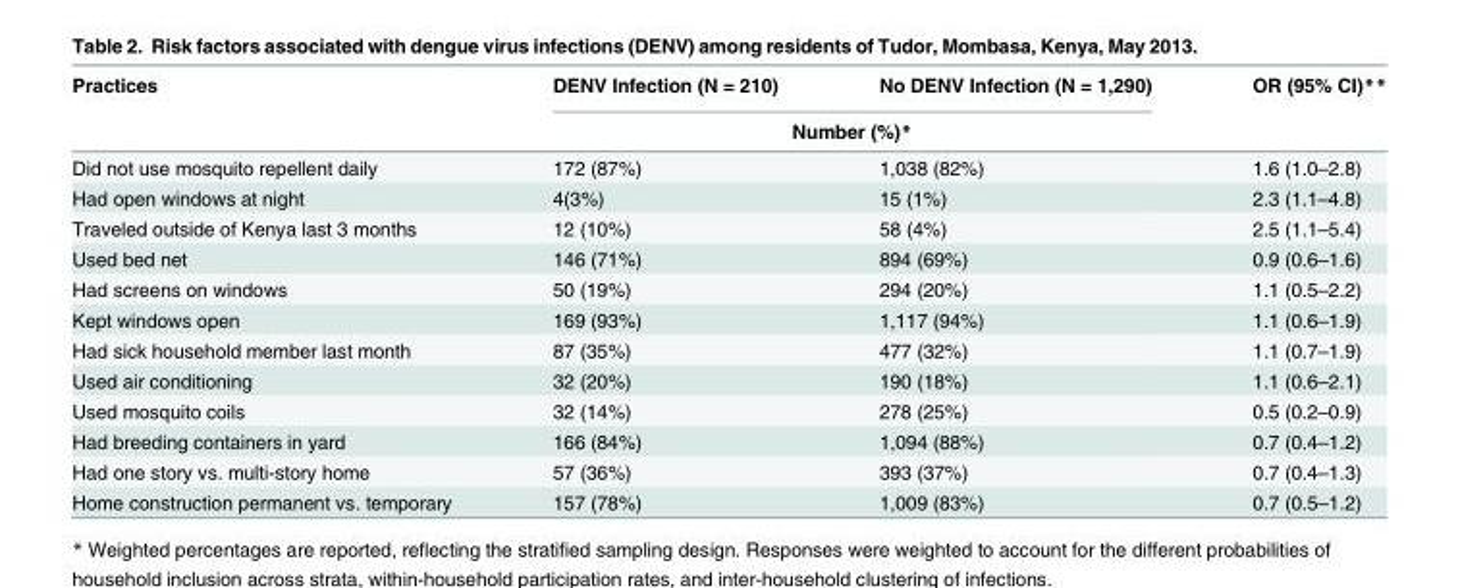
<table><thead><tr><td rowspan="2">Practices</td><td>DENV Infection (N = 210)</td><td>No DENV Infection (N = 1,290)</td><td rowspan="2">OR (95% CI)**</td></tr><tr><td colspan="2">Number (%)*</td></tr></thead><tbody><tr><td>Did not use mosquito repellent daily</td><td>172 (87%)</td><td>1,038 (82%)</td><td>1.6 (1.0–2.8)</td></tr><tr><td>Had open windows at night</td><td>4(3%)</td><td>15 (1%)</td><td>2.3 (1.1–4.8)</td></tr><tr><td>Traveled outside of Kenya last 3 months</td><td>12 (10%)</td><td>58 (4%)</td><td>2.5 (1.1–5.4)</td></tr><tr><td>Used bed net</td><td>146 (71%)</td><td>894 (69%)</td><td>0.9 (0.6–1.6)</td></tr><tr><td>Had screens on windows</td><td>50 (19%)</td><td>294 (20%)</td><td>1.1 (0.5–2.2)</td></tr><tr><td>Kept windows open</td><td>169 (93%)</td><td>1,117 (94%)</td><td>1.1 (0.6–1.9)</td></tr><tr><td>Had sick household member last month</td><td>87 (35%)</td><td>477 (32%)</td><td>1.1 (0.7–1.9)</td></tr><tr><td>Used air conditioning</td><td>32 (20%)</td><td>190 (18%)</td><td>1.1 (0.6–2.1)</td></tr><tr><td>Used mosquito coils</td><td>32 (14%)</td><td>278 (25%)</td><td>0.5 (0.2–0.9)</td></tr><tr><td>Had breeding containers in yard</td><td>166 (84%)</td><td>1,094 (88%)</td><td>0.7 (0.4–1.2)</td></tr><tr><td>Had one story vs. multi-story home</td><td>57 (36%)</td><td>393 (37%)</td><td>0.7 (0.4–1.3)</td></tr><tr><td>Home construction permanent vs. temporary</td><td>157 (78%)</td><td>1,009 (83%)</td><td>0.7 (0.5–1.2)</td></tr></tbody></table>